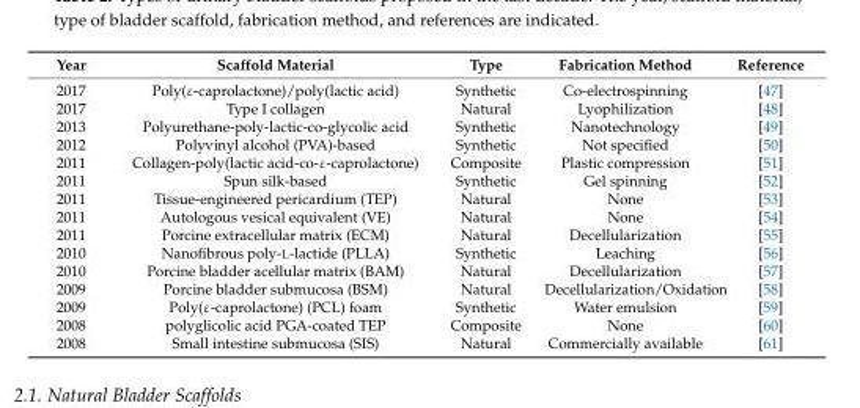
<table><thead><tr><td>Year</td><td>Scaffold Material</td><td>Type</td><td>Fabrication Method</td><td>Reference</td></tr></thead><tbody><tr><td>2017</td><td>Poly(ε-caprolactone)/poly(lactic acid)</td><td>Synthetic</td><td>Co-electrospinning</td><td>[47]</td></tr><tr><td>2017</td><td>Type I collagen</td><td>Natural</td><td>Lyophilization</td><td>[48]</td></tr><tr><td>2013</td><td>Polyurethane-poly-lactic-co-glycolic acid</td><td>Synthetic</td><td>Nanotechnology</td><td>[49]</td></tr><tr><td>2012</td><td>Polyvinyl alcohol (PVA)-based</td><td>Synthetic</td><td>Not specified</td><td>[50]</td></tr><tr><td>2011</td><td>Collagen-poly(lactic acid-co-ε-caprolactone)</td><td>Composite</td><td>Plastic compression</td><td>[51]</td></tr><tr><td>2011</td><td>Spun silk-based</td><td>Synthetic</td><td>Gel spinning</td><td>[52]</td></tr><tr><td>2011</td><td>Tissue-engineered pericardium (TEP)</td><td>Natural</td><td>None</td><td>[53]</td></tr><tr><td>2011</td><td>Autologous vesical equivalent (VE)</td><td>Natural</td><td>None</td><td>[54]</td></tr><tr><td>2011</td><td>Porcine extracellular matrix (ECM)</td><td>Natural</td><td>Decellularization</td><td>[55]</td></tr><tr><td>2010</td><td>Nanofibrous poly-L-lactide (PLLA)</td><td>Synthetic</td><td>Leaching</td><td>[56]</td></tr><tr><td>2010</td><td>Porcine bladder acellular matrix (BAM)</td><td>Natural</td><td>Decellularization</td><td>[57]</td></tr><tr><td>2009</td><td>Porcine bladder submucosa (BSM)</td><td>Natural</td><td>Decellularization/Oxidation</td><td>[58]</td></tr><tr><td>2009</td><td>Poly(ε-caprolactone) (PCL) foam</td><td>Synthetic</td><td>Water emulsion</td><td>[59]</td></tr><tr><td>2008</td><td>polyglicolic acid PGA-coated TEP</td><td>Composite</td><td>None</td><td>[60]</td></tr><tr><td>2008</td><td>Small intestine submucosa (SIS)</td><td>Natural</td><td>Commercially available</td><td>[61]</td></tr></tbody></table>